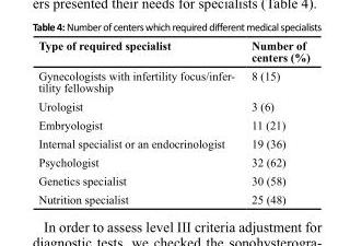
<table><thead><tr><td>Type of required specialist</td><td>Number of centers (%)</td></tr></thead><tbody><tr><td>Gynecologists with infertility focus/infer- tility fellowship</td><td>8 (15)</td></tr><tr><td>Urologist</td><td>3 (6)</td></tr><tr><td>Embryologist</td><td>11 (21)</td></tr><tr><td>Internal specialist or an endocrinologist</td><td>19 (36)</td></tr><tr><td>Psychologist</td><td>32 (62)</td></tr><tr><td>Genetics specialist</td><td>30 (58)</td></tr><tr><td>Nutrition specialist</td><td>25 (48)</td></tr></tbody></table>